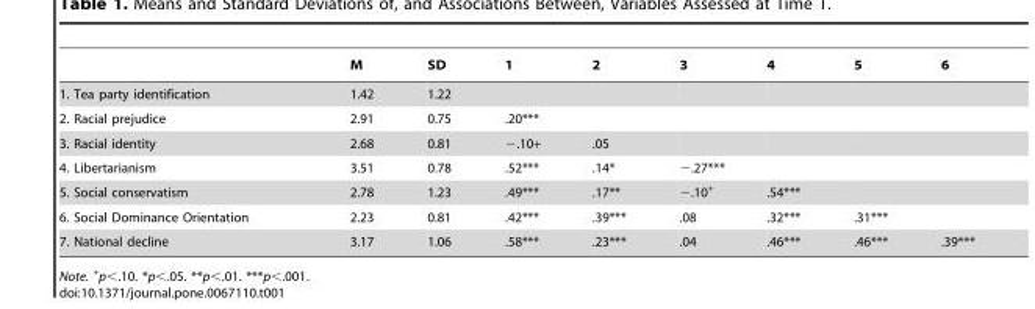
<table><thead><tr><td></td><td>M</td><td>SD</td><td>1</td><td>2</td><td>3</td><td>4</td><td>5</td><td>6</td></tr></thead><tbody><tr><td>1. Tea party identification</td><td>1.42</td><td>1.22</td><td></td><td></td><td></td><td></td><td></td><td></td></tr><tr><td>2. Racial prejudice</td><td>2.91</td><td>0.75</td><td>.20***</td><td></td><td></td><td></td><td></td><td></td></tr><tr><td>3. Racial identity</td><td>2.68</td><td>0.81</td><td>−.10+</td><td>.05</td><td></td><td></td><td></td><td></td></tr><tr><td>4. Libertarianism</td><td>3.51</td><td>0.78</td><td>.52***</td><td>.14*</td><td>−.27***</td><td></td><td></td><td></td></tr><tr><td>5. Social conservatism</td><td>2.78</td><td>1.23</td><td>.49***</td><td>.17**</td><td>−.10<sup>+</sup></td><td>.54***</td><td></td><td></td></tr><tr><td>6. Social Dominance Orientation</td><td>2.23</td><td>0.81</td><td>.42***</td><td>.39***</td><td>.08</td><td>.32***</td><td>.31***</td><td></td></tr><tr><td>7. National decline</td><td>3.17</td><td>1.06</td><td>.58***</td><td>.23***</td><td>.04</td><td>.46***</td><td>.46***</td><td>.39***</td></tr></tbody></table>